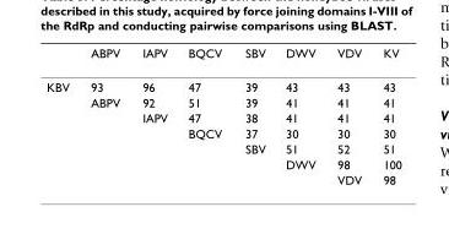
<table><thead><tr><td></td><td>ABPV</td><td>IAPV</td><td>BQCV</td><td>SBV</td><td>DWV</td><td>VDV</td><td>KV</td></tr></thead><tbody><tr><td rowspan="7">KBV</td><td>93</td><td>96</td><td>47</td><td>39</td><td>43</td><td>43</td><td>43</td></tr><tr><td>ABPV</td><td>92</td><td>51</td><td>39</td><td>41</td><td>41</td><td>41</td></tr><tr><td></td><td>IAPV</td><td>47</td><td>38</td><td>41</td><td>41</td><td>41</td></tr><tr><td></td><td></td><td>BQCV</td><td>37</td><td>30</td><td>30</td><td>30</td></tr><tr><td></td><td></td><td></td><td>SBV</td><td>51</td><td>52</td><td>51</td></tr><tr><td></td><td></td><td></td><td></td><td>DWV</td><td>98</td><td>100</td></tr><tr><td></td><td></td><td></td><td></td><td></td><td>VDV</td><td>98</td></tr></tbody></table>